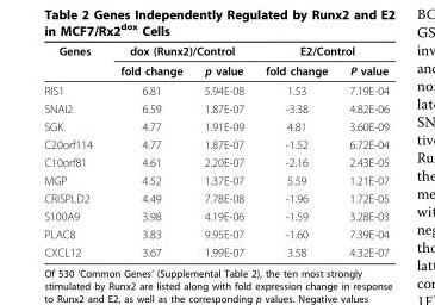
<table><thead><tr><td rowspan="2">Genes</td><td colspan="2">dox (Runx2)/Control</td><td colspan="2">E2/Control</td></tr><tr><td>fold change</td><td>p value</td><td>fold change</td><td>P value</td></tr></thead><tbody><tr><td>RIS1</td><td>6.81</td><td>5.94E-08</td><td>1.53</td><td>7.19E-04</td></tr><tr><td>SNAI2</td><td>6.59</td><td>1.87E-07</td><td>-3.38</td><td>4.82E-06</td></tr><tr><td>SGK</td><td>4.77</td><td>1.91E-09</td><td>4.81</td><td>3.60E-09</td></tr><tr><td>C20orf114</td><td>4.77</td><td>1.87E-07</td><td>-1.52</td><td>6.72E-04</td></tr><tr><td>C10orf81</td><td>4.61</td><td>2.20E-07</td><td>-2.16</td><td>2.43E-05</td></tr><tr><td>MGP</td><td>4.52</td><td>1.37E-07</td><td>5.59</td><td>1.21E-07</td></tr><tr><td>CRISPLD2</td><td>4.49</td><td>7.78E-08</td><td>-1.96</td><td>1.72E-05</td></tr><tr><td>S100A9</td><td>3.98</td><td>4.19E-06</td><td>-1.59</td><td>3.28E-03</td></tr><tr><td>PLAC8</td><td>3.83</td><td>9.95E-07</td><td>-1.60</td><td>7.39E-04</td></tr><tr><td>CXCL12</td><td>3.67</td><td>1.99E-07</td><td>3.58</td><td>4.32E-07</td></tr></tbody></table>